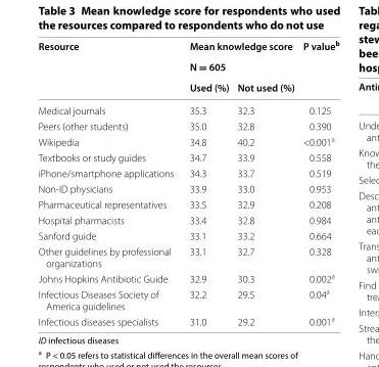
<table><thead><tr><td rowspan="3">Resource</td><td rowspan="2" colspan="2">Mean knowledge score N = 605</td><td rowspan="3">P value<sup>b</sup></td></tr><tr></tr><tr><td>Used (%)</td><td>Not used (%)</td></tr></thead><tbody><tr><td>Medical journals</td><td>35.3</td><td>32.3</td><td>0.125</td></tr><tr><td>Peers (other students)</td><td>35.0</td><td>32.8</td><td>0.390</td></tr><tr><td>Wikipedia</td><td>34.8</td><td>40.2</td><td>&lt;0.001<sup>a</sup></td></tr><tr><td>Textbooks or study guides</td><td>34.7</td><td>33.9</td><td>0.558</td></tr><tr><td>iPhone/smartphone applications</td><td>34.3</td><td>33.7</td><td>0.519</td></tr><tr><td>Non-ID physicians</td><td>33.9</td><td>33.0</td><td>0.953</td></tr><tr><td>Pharmaceutical representatives</td><td>33.5</td><td>32.9</td><td>0.208</td></tr><tr><td>Hospital pharmacists</td><td>33.4</td><td>32.8</td><td>0.984</td></tr><tr><td>Sanford guide</td><td>33.1</td><td>33.2</td><td>0.664</td></tr><tr><td>Other guidelines by professional organizations</td><td>33.1</td><td>32.7</td><td>0.328</td></tr><tr><td>Johns Hopkins Antibiotic Guide</td><td>32.9</td><td>30.3</td><td>0.002<sup>a</sup></td></tr><tr><td>Infectious Diseases Society of America guidelines</td><td>32.2</td><td>29.5</td><td>0.04<sup>a</sup></td></tr><tr><td>Infectious diseases specialists</td><td>31.0</td><td>29.2</td><td>0.001<sup>a</sup></td></tr></tbody></table>